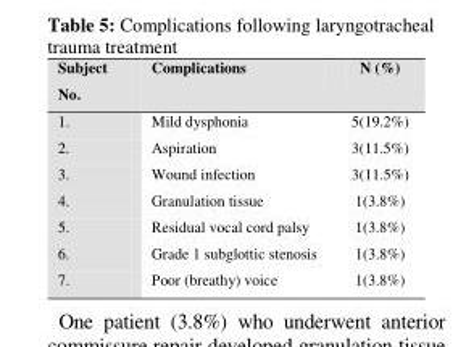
<table><thead><tr><td>Subject No.</td><td>Complications</td><td>N (%)</td></tr></thead><tbody><tr><td>1.</td><td>Mild dysphonia</td><td>5(19.2%)</td></tr><tr><td>2.</td><td>Aspiration</td><td>3(11.5%)</td></tr><tr><td>3.</td><td>Wound infection</td><td>3(11.5%)</td></tr><tr><td>4.</td><td>Granulation tissue</td><td>1(3.8%)</td></tr><tr><td>5.</td><td>Residual vocal cord palsy</td><td>1(3.8%)</td></tr><tr><td>6.</td><td>Grade 1 subglottic stenosis</td><td>1(3.8%)</td></tr><tr><td>7.</td><td>Poor (breathy) voice</td><td>1(3.8%)</td></tr></tbody></table>